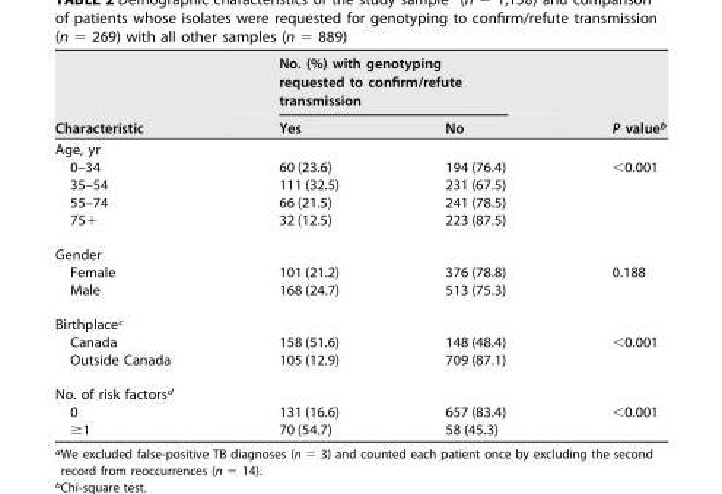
<table><thead><tr><td rowspan="2">Characteristic</td><td colspan="2">No. (%) with genotyping requested to confirm/refute transmission</td><td rowspan="2">P value<sup>b</sup></td></tr><tr><td>Yes</td><td>No</td></tr></thead><tbody><tr><td colspan="4">Age, yr</td></tr><tr><td>0–34</td><td>60 (23.6)</td><td>194 (76.4)</td><td>&lt;0.001</td></tr><tr><td>35–54</td><td>111 (32.5)</td><td>231 (67.5)</td><td></td></tr><tr><td>55–74</td><td>66 (21.5)</td><td>241 (78.5)</td><td></td></tr><tr><td>75+</td><td>32 (12.5)</td><td>223 (87.5)</td><td></td></tr><tr><td colspan="4">Gender</td></tr><tr><td>Female</td><td>101 (21.2)</td><td>376 (78.8)</td><td>0.188</td></tr><tr><td>Male</td><td>168 (24.7)</td><td>513 (75.3)</td><td></td></tr><tr><td colspan="4">Birthplace<sup>c</sup></td></tr><tr><td>Canada</td><td>158 (51.6)</td><td>148 (48.4)</td><td>&lt;0.001</td></tr><tr><td>Outside Canada</td><td>105 (12.9)</td><td>709 (87.1)</td><td></td></tr><tr><td colspan="4">No. of risk factors<sup>d</sup></td></tr><tr><td>0</td><td>131 (16.6)</td><td>657 (83.4)</td><td>&lt;0.001</td></tr><tr><td>≥1</td><td>70 (54.7)</td><td>58 (45.3)</td><td></td></tr></tbody></table>